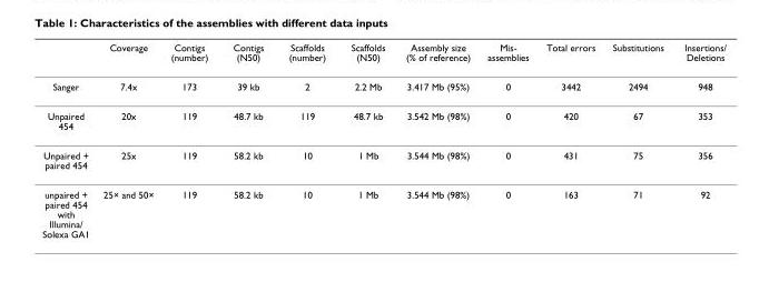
<table><thead><tr><td></td><td>Coverage</td><td>Contigs (number)</td><td>Contigs (N50)</td><td>Scaffolds (number)</td><td>Scaffolds (N50)</td><td>Assembly size (% of reference)</td><td>Mis- assemblies</td><td>Total errors</td><td>Substitutions</td><td>Insertions/ Deletions</td></tr></thead><tbody><tr><td>Sanger</td><td>7.4x</td><td>173</td><td>39 kb</td><td>2</td><td>2.2 Mb</td><td>3.417 Mb (95%)</td><td>0</td><td>3442</td><td>2494</td><td>948</td></tr><tr><td>Unpaired 454</td><td>20x</td><td>119</td><td>48.7 kb</td><td>119</td><td>48.7 kb</td><td>3.542 Mb (98%)</td><td>0</td><td>420</td><td>67</td><td>353</td></tr><tr><td>Unpaired + paired 454</td><td>25x</td><td>119</td><td>58.2 kb</td><td>10</td><td>1 Mb</td><td>3.544 Mb (98%)</td><td>0</td><td>431</td><td>75</td><td>356</td></tr><tr><td>unpaired + paired 454 with Illumina/ Solexa GA1</td><td>25× and 50×</td><td>119</td><td>58.2 kb</td><td>10</td><td>1 Mb</td><td>3.544 Mb (98%)</td><td>0</td><td>163</td><td>71</td><td>92</td></tr></tbody></table>